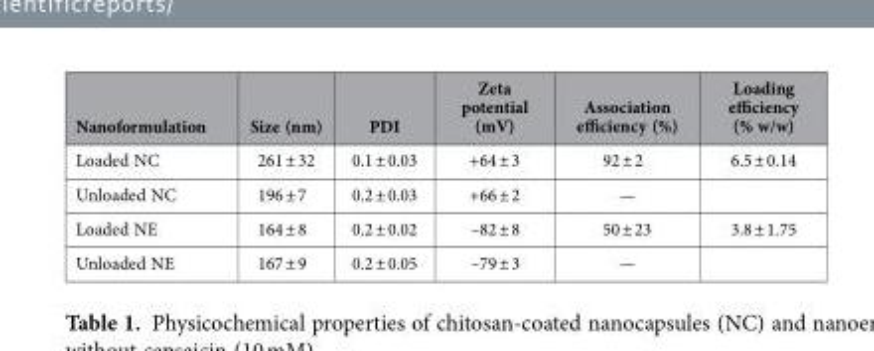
<table><thead><tr><td>Nanoformulation</td><td>Size (nm)</td><td>PDI</td><td>Zeta potential (mV)</td><td>Association efficiency (%)</td><td>Loading efficiency (% w/w)</td></tr></thead><tbody><tr><td>Loaded NC</td><td>261 ± 32</td><td>0.1 ± 0.03</td><td>+64 ± 3</td><td>92 ± 2</td><td>6.5 ± 0.14</td></tr><tr><td>Unloaded NC</td><td>196 ± 7</td><td>0.2 ± 0.03</td><td>+66 ± 2</td><td>—</td><td></td></tr><tr><td>Loaded NE</td><td>164 ± 8</td><td>0.2 ± 0.02</td><td>–82 ± 8</td><td>50 ± 23</td><td>3.8 ± 1.75</td></tr><tr><td>Unloaded NE</td><td>167 ± 9</td><td>0.2 ± 0.05</td><td>–79 ± 3</td><td>—</td><td></td></tr></tbody></table>